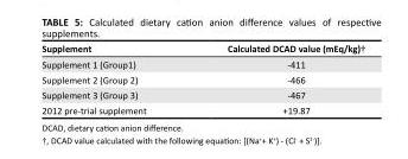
<table><thead><tr><td>Supplement</td><td>Calculated DCAD value (mEq/kg)†</td></tr></thead><tbody><tr><td>Supplement 1 (Group1)</td><td>-411</td></tr><tr><td>Supplement 2 (Group 2)</td><td>-466</td></tr><tr><td>Supplement 3 (Group 3)</td><td>-467</td></tr><tr><td>2012 pre-trial supplement</td><td>+19.87</td></tr></tbody></table>